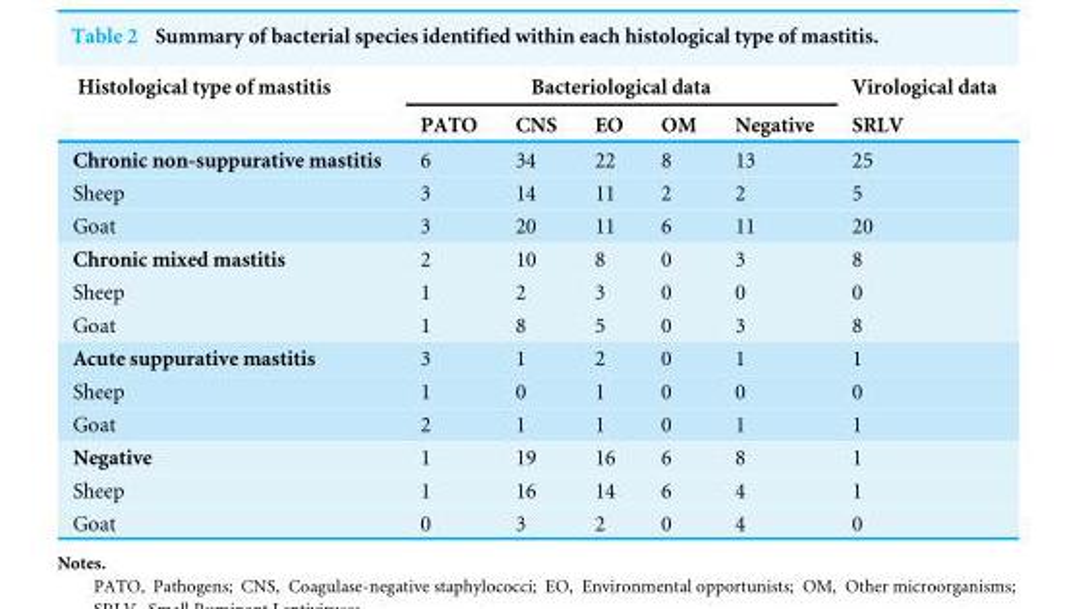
<table><thead><tr><td rowspan="2">Histological type of mastitis</td><td colspan="5">Bacteriological data</td><td rowspan="2">Virological data SRLV</td></tr><tr><td>PATO</td><td>CNS</td><td>EO</td><td>OM</td><td>Negative</td></tr></thead><tbody><tr><td>Chronic non-suppurative mastitis</td><td>6</td><td>34</td><td>22</td><td>8</td><td>13</td><td>25</td></tr><tr><td>Sheep</td><td>3</td><td>14</td><td>11</td><td>2</td><td>2</td><td>5</td></tr><tr><td>Goat</td><td>3</td><td>20</td><td>11</td><td>6</td><td>11</td><td>20</td></tr><tr><td>Chronic mixed mastitis</td><td>2</td><td>10</td><td>8</td><td>0</td><td>3</td><td>8</td></tr><tr><td>Sheep</td><td>1</td><td>2</td><td>3</td><td>0</td><td>0</td><td>0</td></tr><tr><td>Goat</td><td>1</td><td>8</td><td>5</td><td>0</td><td>3</td><td>8</td></tr><tr><td>Acute suppurative mastitis</td><td>3</td><td>1</td><td>2</td><td>0</td><td>1</td><td>1</td></tr><tr><td>Sheep</td><td>1</td><td>0</td><td>1</td><td>0</td><td>0</td><td>0</td></tr><tr><td>Goat</td><td>2</td><td>1</td><td>1</td><td>0</td><td>1</td><td>1</td></tr><tr><td>Negative</td><td>1</td><td>19</td><td>16</td><td>6</td><td>8</td><td>1</td></tr><tr><td>Sheep</td><td>1</td><td>16</td><td>14</td><td>6</td><td>4</td><td>1</td></tr><tr><td>Goat</td><td>0</td><td>3</td><td>2</td><td>0</td><td>4</td><td>0</td></tr></tbody></table>